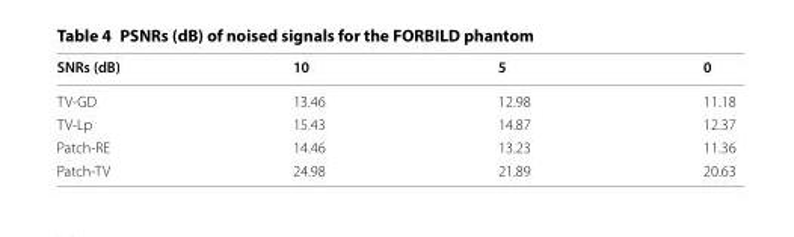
<table><thead><tr><td>SNRs (dB)</td><td>10</td><td>5</td><td>0</td></tr></thead><tbody><tr><td>TV-GD</td><td>13.46</td><td>12.98</td><td>11.18</td></tr><tr><td>TV-Lp</td><td>15.43</td><td>14.87</td><td>12.37</td></tr><tr><td>Patch-RE</td><td>14.46</td><td>13.23</td><td>11.36</td></tr><tr><td>Patch-TV</td><td>24.98</td><td>21.89</td><td>20.63</td></tr></tbody></table>